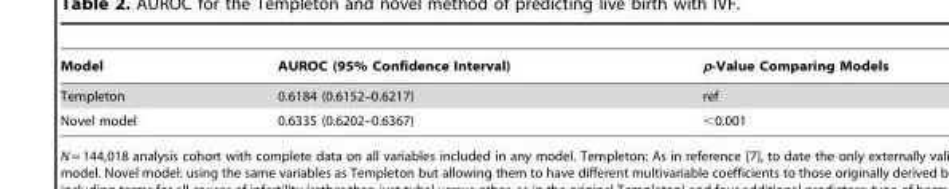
<table><thead><tr><td>Model</td><td>AUROC (95% Confidence Interval)</td><td>p-Value Comparing Models</td></tr></thead><tbody><tr><td>Templeton</td><td>0.6184 (0.6152–0.6217)</td><td>ref</td></tr><tr><td>Novel model</td><td>0.6335 (0.6202–0.6367)</td><td>&lt;0.001</td></tr></tbody></table>